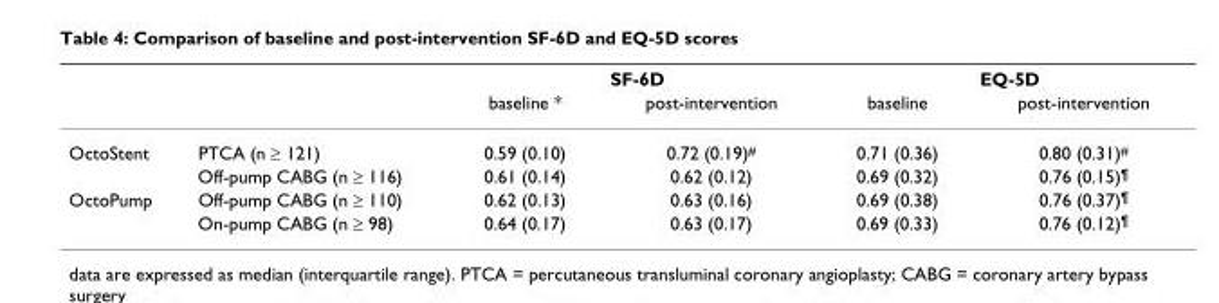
<table><thead><tr><td rowspan="2"></td><td rowspan="2"></td><td colspan="2">SF-6D</td><td colspan="2">EQ-5D</td></tr><tr><td>baseline *</td><td>post-intervention</td><td>baseline</td><td>post-intervention</td></tr></thead><tbody><tr><td rowspan="2">OctoStent</td><td>PTCA (n ≥ 121)</td><td>0.59 (0.10)</td><td>0.72 (0.19)<sup>#</sup></td><td>0.71 (0.36)</td><td>0.80 (0.31)<sup>#</sup></td></tr><tr><td>Off-pump CABG (n ≥ 116)</td><td>0.61 (0.14)</td><td>0.62 (0.12)</td><td>0.69 (0.32)</td><td>0.76 (0.15)<sup>¶</sup></td></tr><tr><td rowspan="2">OctoPump</td><td>Off-pump CABG (n ≥ 110)</td><td>0.62 (0.13)</td><td>0.63 (0.16)</td><td>0.69 (0.38)</td><td>0.76 (0.37)<sup>¶</sup></td></tr><tr><td>On-pump CABG (n ≥ 98)</td><td>0.64 (0.17)</td><td>0.63 (0.17)</td><td>0.69 (0.33)</td><td>0.76 (0.12)<sup>¶</sup></td></tr></tbody></table>